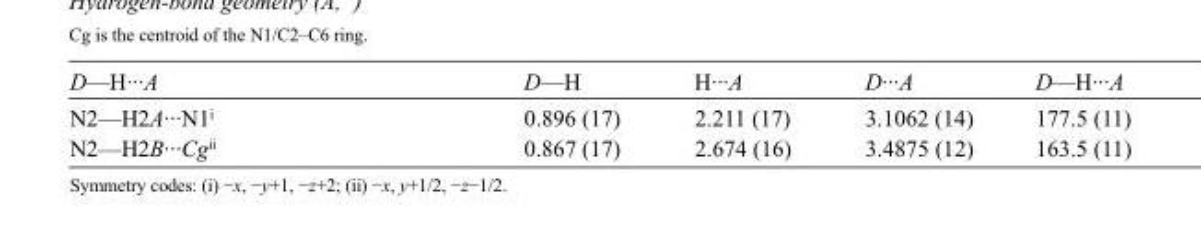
<table><tbody><tr><td>D—H···A</td><td>D—H</td><td>H···A</td><td>D···A</td><td>D—H···A</td></tr><tr><td>N2—H2A···N1<sup>i</sup></td><td>0.896 (17)</td><td>2.211 (17)</td><td>3.1062 (14)</td><td>177.5 (11)</td></tr><tr><td>N2—H2B···Cg<sup>ii</sup></td><td>0.867 (17)</td><td>2.674 (16)</td><td>3.4875 (12)</td><td>163.5 (11)</td></tr></tbody></table>